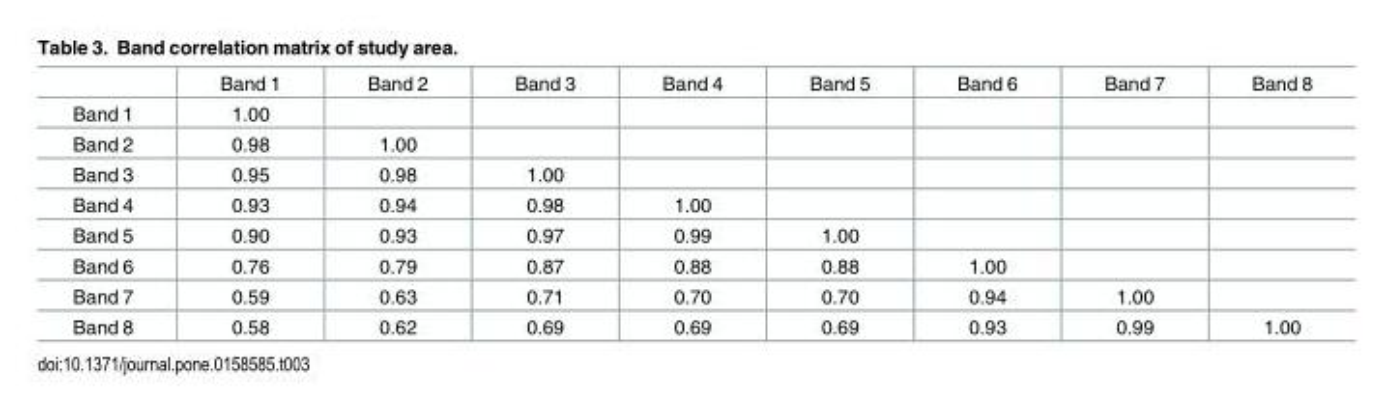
<table><thead><tr><td></td><td>Band 1</td><td>Band 2</td><td>Band 3</td><td>Band 4</td><td>Band 5</td><td>Band 6</td><td>Band 7</td><td>Band 8</td></tr></thead><tbody><tr><td>Band 1</td><td>1.00</td><td></td><td></td><td></td><td></td><td></td><td></td><td></td></tr><tr><td>Band 2</td><td>0.98</td><td>1.00</td><td></td><td></td><td></td><td></td><td></td><td></td></tr><tr><td>Band 3</td><td>0.95</td><td>0.98</td><td>1.00</td><td></td><td></td><td></td><td></td><td></td></tr><tr><td>Band 4</td><td>0.93</td><td>0.94</td><td>0.98</td><td>1.00</td><td></td><td></td><td></td><td></td></tr><tr><td>Band 5</td><td>0.90</td><td>0.93</td><td>0.97</td><td>0.99</td><td>1.00</td><td></td><td></td><td></td></tr><tr><td>Band 6</td><td>0.76</td><td>0.79</td><td>0.87</td><td>0.88</td><td>0.88</td><td>1.00</td><td></td><td></td></tr><tr><td>Band 7</td><td>0.59</td><td>0.63</td><td>0.71</td><td>0.70</td><td>0.70</td><td>0.94</td><td>1.00</td><td></td></tr><tr><td>Band 8</td><td>0.58</td><td>0.62</td><td>0.69</td><td>0.69</td><td>0.69</td><td>0.93</td><td>0.99</td><td>1.00</td></tr></tbody></table>